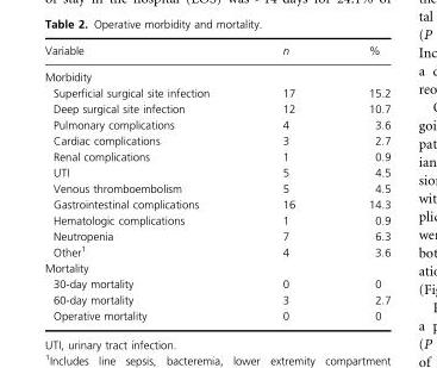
<table><thead><tr><td>Variable</td><td>n</td><td>%</td></tr></thead><tbody><tr><td colspan="3">Morbidity</td></tr><tr><td>Superficial surgical site infection</td><td>17</td><td>15.2</td></tr><tr><td>Deep surgical site infection</td><td>12</td><td>10.7</td></tr><tr><td>Pulmonary complications</td><td>4</td><td>3.6</td></tr><tr><td>Cardiac complications</td><td>3</td><td>2.7</td></tr><tr><td>Renal complications</td><td>1</td><td>0.9</td></tr><tr><td>UTI</td><td>5</td><td>4.5</td></tr><tr><td>Venous thromboembolism</td><td>5</td><td>4.5</td></tr><tr><td>Gastrointestinal complications</td><td>16</td><td>14.3</td></tr><tr><td>Hematologic complications</td><td>1</td><td>0.9</td></tr><tr><td>Neutropenia</td><td>7</td><td>6.3</td></tr><tr><td>Other<sup>1</sup></td><td>4</td><td>3.6</td></tr><tr><td colspan="3">Mortality</td></tr><tr><td>30-day mortality</td><td>0</td><td>0</td></tr><tr><td>60-day mortality</td><td>3</td><td>2.7</td></tr><tr><td>Operative mortality</td><td>0</td><td>0</td></tr></tbody></table>